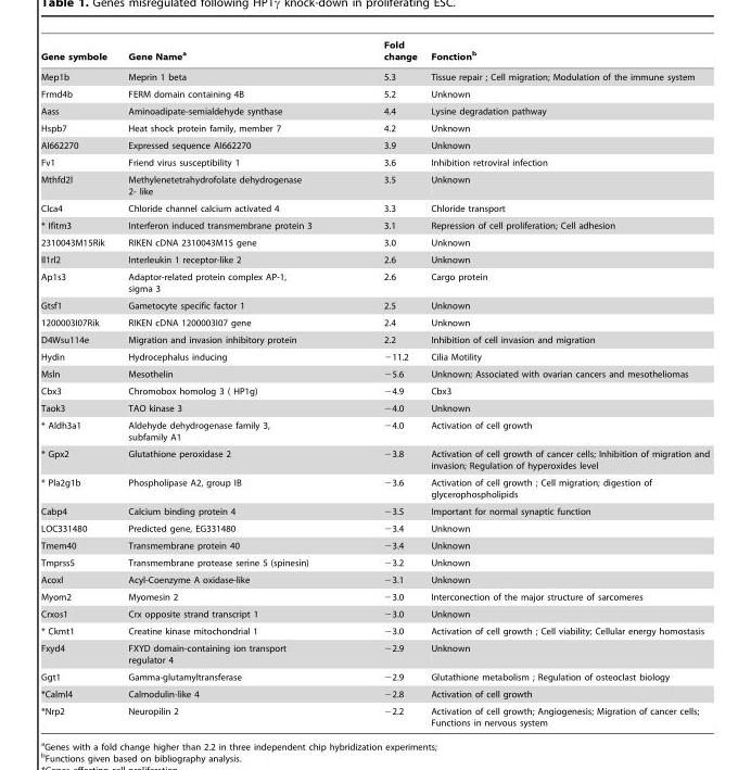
<table><thead><tr><td>Gene symbole</td><td>Gene Name<sup>a</sup></td><td>Fold change</td><td>Fonction<sup>b</sup></td></tr></thead><tbody><tr><td>Mep1b</td><td>Meprin 1 beta</td><td>5.3</td><td>Tissue repair ; Cell migration; Modulation of the immune system</td></tr><tr><td>Frmd4b</td><td>FERM domain containing 4B</td><td>5.2</td><td>Unknown</td></tr><tr><td>Aass</td><td>Aminoadipate-semialdehyde synthase</td><td>4.4</td><td>Lysine degradation pathway</td></tr><tr><td>Hspb7</td><td>Heat shock protein family, member 7</td><td>4.2</td><td>Unknown</td></tr><tr><td>AI662270</td><td>Expressed sequence AI662270</td><td>3.9</td><td>Unknown</td></tr><tr><td>Fv1</td><td>Friend virus susceptibility 1</td><td>3.6</td><td>Inhibition retroviral infection</td></tr><tr><td>Mthfd2l</td><td>Methylenetetrahydrofolate dehydrogenase 2- like</td><td>3.5</td><td>Unknown</td></tr><tr><td>Clca4</td><td>Chloride channel calcium activated 4</td><td>3.3</td><td>Chloride transport</td></tr><tr><td>* Ifitm3</td><td>Interferon induced transmembrane protein 3</td><td>3.1</td><td>Repression of cell proliferation; Cell adhesion</td></tr><tr><td>2310043M15Rik</td><td>RIKEN cDNA 2310043M15 gene</td><td>3.0</td><td>Unknown</td></tr><tr><td>Il1rl2</td><td>Interleukin 1 receptor-like 2</td><td>2.6</td><td>Unknown</td></tr><tr><td>Ap1s3</td><td>Adaptor-related protein complex AP-1, sigma 3</td><td>2.6</td><td>Cargo protein</td></tr><tr><td>Gtsf1</td><td>Gametocyte specific factor 1</td><td>2.5</td><td>Unknown</td></tr><tr><td>1200003I07Rik</td><td>RIKEN cDNA 1200003I07 gene</td><td>2.4</td><td>Unknown</td></tr><tr><td>D4Wsu114e</td><td>Migration and invasion inhibitory protein</td><td>2.2</td><td>Inhibition of cell invasion and migration</td></tr><tr><td>Hydin</td><td>Hydrocephalus inducing</td><td>−11.2</td><td>Cilia Motility</td></tr><tr><td>Msln</td><td>Mesothelin</td><td>−5.6</td><td>Unknown; Associated with ovarian cancers and mesotheliomas</td></tr><tr><td>Cbx3</td><td>Chromobox homolog 3 ( HP1g)</td><td>−4.9</td><td>Cbx3</td></tr><tr><td>Taok3</td><td>TAO kinase 3</td><td>−4.0</td><td>Unknown</td></tr><tr><td>* Aldh3a1</td><td>Aldehyde dehydrogenase family 3, subfamily A1</td><td>−4.0</td><td>Activation of cell growth</td></tr><tr><td>* Gpx2</td><td>Glutathione peroxidase 2</td><td>−3.8</td><td>Activation of cell growth of cancer cells; Inhibition of migration and invasion; Regulation of hyperoxides level</td></tr><tr><td>* Pla2g1b</td><td>Phospholipase A2, group IB</td><td>−3.6</td><td>Activation of cell growth ; Cell migration; digestion of glycerophospholipids</td></tr><tr><td>Cabp4</td><td>Calcium binding protein 4</td><td>−3.5</td><td>Important for normal synaptic function</td></tr><tr><td>LOC331480</td><td>Predicted gene, EG331480</td><td>−3.4</td><td>Unknown</td></tr><tr><td>Tmem40</td><td>Transmembrane protein 40</td><td>−3.4</td><td>Unknown</td></tr><tr><td>Tmprss5</td><td>Transmembrane protease serine 5 (spinesin)</td><td>−3.2</td><td>Unknown</td></tr><tr><td>Acoxl</td><td>Acyl-Coenzyme A oxidase-like</td><td>−3.1</td><td>Unknown</td></tr><tr><td>Myom2</td><td>Myomesin 2</td><td>−3.0</td><td>Interconection of the major structure of sarcomeres</td></tr><tr><td>Crxos1</td><td>Crx opposite strand transcript 1</td><td>−3.0</td><td>Unknown</td></tr><tr><td>* Ckmt1</td><td>Creatine kinase mitochondrial 1</td><td>−3.0</td><td>Activation of cell growth ; Cell viability; Cellular energy homostasis</td></tr><tr><td>Fxyd4</td><td>FXYD domain-containing ion transport regulator 4</td><td>−2.9</td><td>Unknown</td></tr><tr><td>Ggt1</td><td>Gamma-glutamyltransferase</td><td>−2.9</td><td>Glutathione metabolism ; Regulation of osteoclast biology</td></tr><tr><td>*Calml4</td><td>Calmodulin-like 4</td><td>−2.8</td><td>Activation of cell growth</td></tr><tr><td>*Nrp2</td><td>Neuropilin 2</td><td>−2.2</td><td>Activation of cell growth; Angiogenesis; Migration of cancer cells; Functions in nervous system</td></tr></tbody></table>